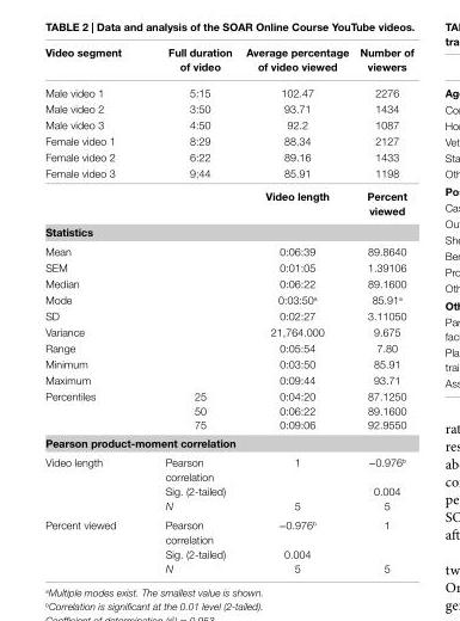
<table><thead><tr><td>video segment</td><td>Full duration of video</td><td>average percentage of video viewed</td><td>number of viewers</td></tr></thead><tbody><tr><td>Male video 1</td><td>5:15</td><td>102.47</td><td>2276</td></tr><tr><td>Male video 2</td><td>3:50</td><td>93.71</td><td>1434</td></tr><tr><td>Male video 3</td><td>4:50</td><td>92.2</td><td>1087</td></tr><tr><td>Female video 1</td><td>8:29</td><td>88.34</td><td>2127</td></tr><tr><td>Female video 2</td><td>6:22</td><td>89.16</td><td>1433</td></tr><tr><td>Female video 3</td><td>9:44</td><td>85.91</td><td>1198</td></tr><tr><td colspan="2"></td><td>video length</td><td>Percent viewed</td></tr><tr><td colspan="4">Statistics</td></tr><tr><td colspan="2">Mean</td><td>0:06:39</td><td>89.8640</td></tr><tr><td colspan="2">SEM</td><td>0:01:05</td><td>1.39106</td></tr><tr><td colspan="2">Median</td><td>0:06:22</td><td>89.1600</td></tr><tr><td colspan="2">Mode</td><td>0:03:50<sup>a</sup></td><td>85.91<sup>a</sup></td></tr><tr><td colspan="2">SD</td><td>0:02:27</td><td>3.11050</td></tr><tr><td colspan="2">Variance</td><td>21,764.000</td><td>9.675</td></tr><tr><td colspan="2">Range</td><td>0:05:54</td><td>7.80</td></tr><tr><td colspan="2">Minimum</td><td>0:03:50</td><td>85.91</td></tr><tr><td colspan="2">Maximum</td><td>0:09:44</td><td>93.71</td></tr><tr><td rowspan="3">Percentiles</td><td>25</td><td>0:04:20</td><td>87.1250</td></tr><tr><td>50</td><td>0:06:22</td><td>89.1600</td></tr><tr><td>75</td><td>0:09:06</td><td>92.9550</td></tr><tr><td colspan="4">Pearson product-moment correlation</td></tr><tr><td rowspan="3">Video length</td><td>Pearson correlation</td><td>1</td><td>−0.976<sup>b</sup></td></tr><tr><td>Sig. (2-tailed)</td><td></td><td>0.004</td></tr><tr><td>N</td><td>5</td><td>5</td></tr><tr><td rowspan="3">Percent viewed</td><td>Pearson correlation</td><td>−0.976<sup>b</sup></td><td>1</td></tr><tr><td>Sig. (2-tailed)</td><td>0.004</td><td></td></tr><tr><td>N</td><td>5</td><td>5</td></tr></tbody></table>